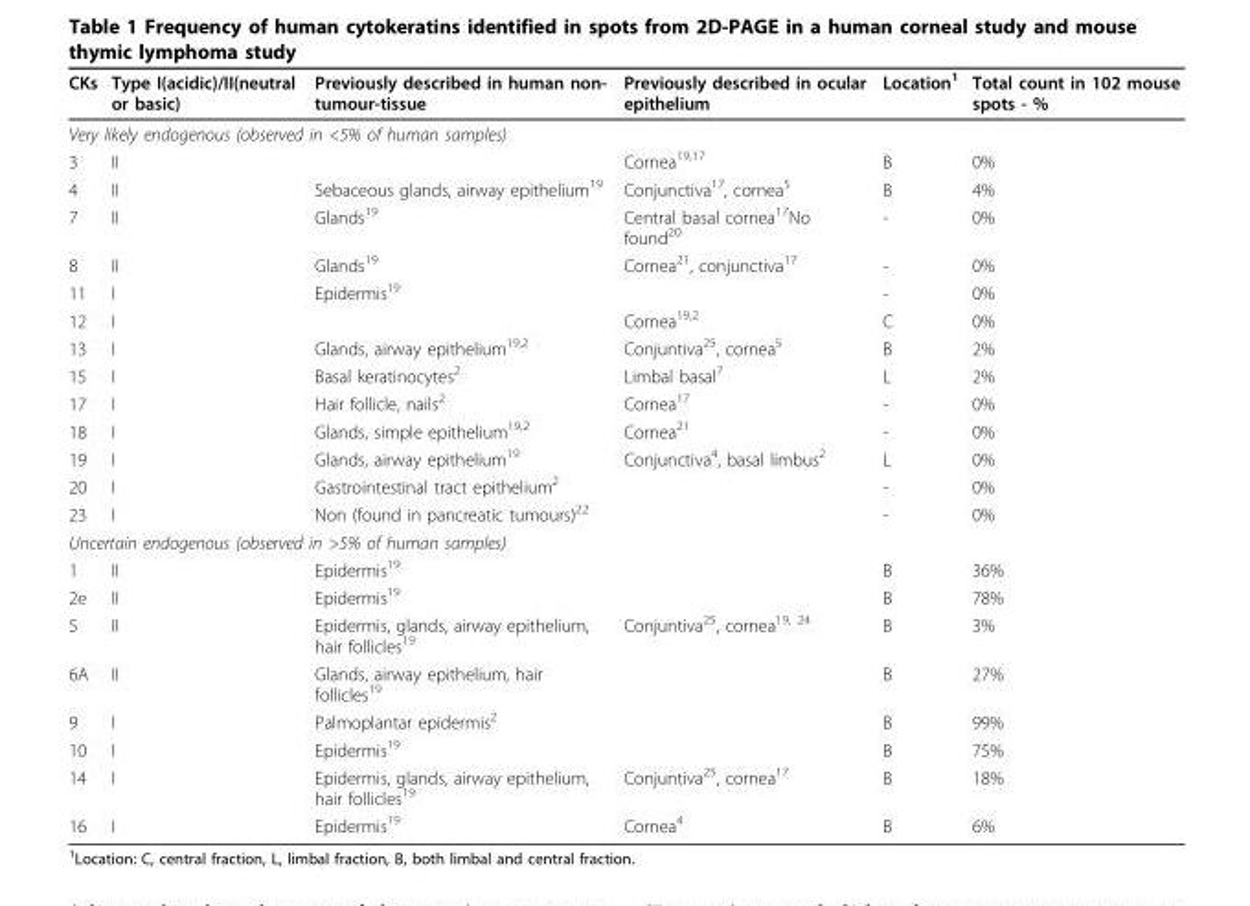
<table><thead><tr><td>CKs</td><td>Type I(acidic)/II(neutral or basic)</td><td>Previously described in human non- tumour-tissue</td><td>Previously described in ocular epithelium</td><td>Location<sup>1</sup></td><td>Total count in 102 mouse spots - %</td></tr></thead><tbody><tr><td colspan="6">Very likely endogenous (observed in &lt;5% of human samples)</td></tr><tr><td>3</td><td>II</td><td></td><td>Cornea<sup>19,17</sup></td><td>B</td><td>0%</td></tr><tr><td>4</td><td>II</td><td>Sebaceous glands, airway epithelium<sup>19</sup></td><td>Conjunctiva<sup>17</sup>, cornea<sup>5</sup></td><td>B</td><td>4%</td></tr><tr><td>7</td><td>II</td><td>Glands<sup>19</sup></td><td>Central basal cornea<sup>17</sup>No found<sup>20</sup></td><td>-</td><td>0%</td></tr><tr><td>8</td><td>II</td><td>Glands<sup>19</sup></td><td>Cornea<sup>21</sup>, conjunctiva<sup>17</sup></td><td>-</td><td>0%</td></tr><tr><td>11</td><td>I</td><td>Epidermis<sup>19</sup></td><td></td><td>-</td><td>0%</td></tr><tr><td>12</td><td>I</td><td></td><td>Cornea<sup>19,2</sup></td><td>C</td><td>0%</td></tr><tr><td>13</td><td>I</td><td>Glands, airway epithelium<sup>19,2</sup></td><td>Conjuntiva<sup>25</sup>, cornea<sup>5</sup></td><td>B</td><td>2%</td></tr><tr><td>15</td><td>I</td><td>Basal keratinocytes<sup>2</sup></td><td>Limbal basal<sup>7</sup></td><td>L</td><td>2%</td></tr><tr><td>17</td><td>I</td><td>Hair follicle, nails<sup>2</sup></td><td>Cornea<sup>17</sup></td><td>-</td><td>0%</td></tr><tr><td>18</td><td>I</td><td>Glands, simple epithelium<sup>19,2</sup></td><td>Cornea<sup>21</sup></td><td>-</td><td>0%</td></tr><tr><td>19</td><td>I</td><td>Glands, airway epithelium<sup>19</sup></td><td>Conjunctiva<sup>4</sup>, basal limbus<sup>2</sup></td><td>L</td><td>0%</td></tr><tr><td>20</td><td>I</td><td>Gastrointestinal tract epithelium<sup>2</sup></td><td></td><td>-</td><td>0%</td></tr><tr><td>23</td><td>I</td><td>Non (found in pancreatic tumours)<sup>22</sup></td><td></td><td>-</td><td>0%</td></tr><tr><td colspan="6">Uncertain endogenous (observed in &gt;5% of human samples)</td></tr><tr><td>1</td><td>II</td><td>Epidermis<sup>19</sup></td><td></td><td>B</td><td>36%</td></tr><tr><td>2e</td><td>II</td><td>Epidermis<sup>19</sup></td><td></td><td>B</td><td>78%</td></tr><tr><td>5</td><td>II</td><td>Epidermis, glands, airway epithelium, hair follicles<sup>19</sup></td><td>Conjuntiva<sup>25</sup>, cornea<sup>19, 24</sup></td><td>B</td><td>3%</td></tr><tr><td>6A</td><td>II</td><td>Glands, airway epithelium, hair follicles<sup>19</sup></td><td></td><td>B</td><td>27%</td></tr><tr><td>9</td><td>I</td><td>Palmoplantar epidermis<sup>2</sup></td><td></td><td>B</td><td>99%</td></tr><tr><td>10</td><td>I</td><td>Epidermis<sup>19</sup></td><td></td><td>B</td><td>75%</td></tr><tr><td>14</td><td>I</td><td>Epidermis, glands, airway epithelium, hair follicles<sup>19</sup></td><td>Conjuntiva<sup>25</sup>, cornea<sup>17</sup></td><td>B</td><td>18%</td></tr><tr><td>16</td><td>I</td><td>Epidermis<sup>19</sup></td><td>Cornea<sup>4</sup></td><td>B</td><td>6%</td></tr></tbody></table>